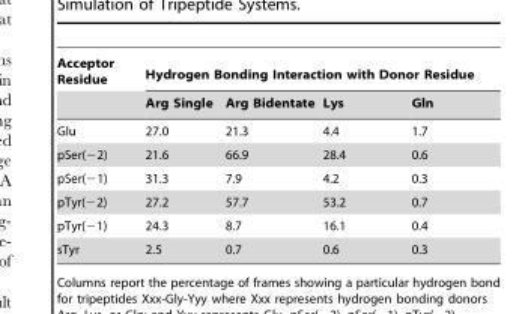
<table><thead><tr><td rowspan="2">Acceptor Residue</td><td colspan="4">Hydrogen Bonding Interaction with Donor Residue</td></tr><tr><td>Arg Single</td><td>Arg Bidentate</td><td>Lys</td><td>Gln</td></tr></thead><tbody><tr><td>Glu</td><td>27.0</td><td>21.3</td><td>4.4</td><td>1.7</td></tr><tr><td>pSer(−2)</td><td>21.6</td><td>66.9</td><td>28.4</td><td>0.6</td></tr><tr><td>pSer(−1)</td><td>31.3</td><td>7.9</td><td>4.2</td><td>0.3</td></tr><tr><td>pTyr(−2)</td><td>27.2</td><td>57.7</td><td>53.2</td><td>0.7</td></tr><tr><td>pTyr(−1)</td><td>24.3</td><td>8.7</td><td>16.1</td><td>0.4</td></tr><tr><td>sTyr</td><td>2.5</td><td>0.7</td><td>0.6</td><td>0.3</td></tr></tbody></table>